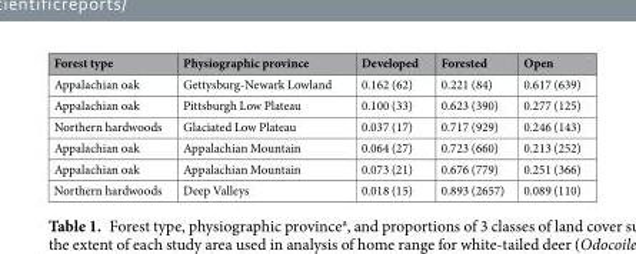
<table><thead><tr><td>Forest type</td><td>Physiographic province</td><td>Developed</td><td>Forested</td><td>Open</td></tr></thead><tbody><tr><td>Appalachian oak</td><td>Gettysburg-Newark Lowland</td><td>0.162 (62)</td><td>0.221 (84)</td><td>0.617 (639)</td></tr><tr><td>Appalachian oak</td><td>Pittsburgh Low Plateau</td><td>0.100 (33)</td><td>0.623 (390)</td><td>0.277 (125)</td></tr><tr><td>Northern hardwoods</td><td>Glaciated Low Plateau</td><td>0.037 (17)</td><td>0.717 (929)</td><td>0.246 (143)</td></tr><tr><td>Appalachian oak</td><td>Appalachian Mountain</td><td>0.064 (27)</td><td>0.723 (660)</td><td>0.213 (252)</td></tr><tr><td>Appalachian oak</td><td>Appalachian Mountain</td><td>0.073 (21)</td><td>0.676 (779)</td><td>0.251 (366)</td></tr><tr><td>Northern hardwoods</td><td>Deep Valleys</td><td>0.018 (15)</td><td>0.893 (2657)</td><td>0.089 (110)</td></tr></tbody></table>